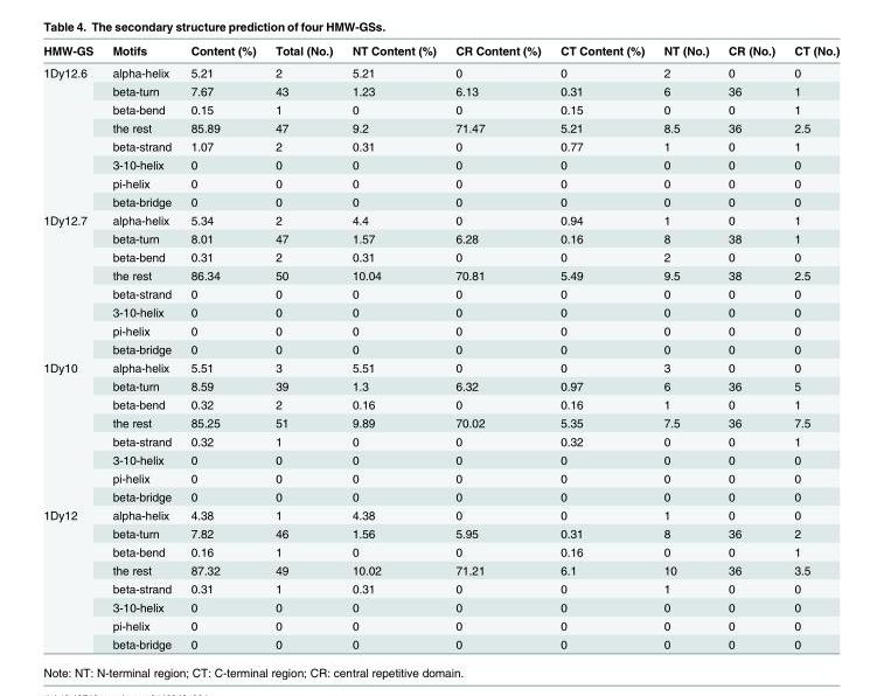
<table><thead><tr><td>HMW-GS</td><td>Motifs</td><td>Content (%)</td><td>Total (No.)</td><td>NT Content (%)</td><td>CR Content (%)</td><td>CT Content (%)</td><td>NT (No.)</td><td>CR (No.)</td><td>CT (No.)</td></tr></thead><tbody><tr><td rowspan="8">1Dy12.6</td><td>alpha-helix</td><td>5.21</td><td>2</td><td>5.21</td><td>0</td><td>0</td><td>2</td><td>0</td><td>0</td></tr><tr><td>beta-turn</td><td>7.67</td><td>43</td><td>1.23</td><td>6.13</td><td>0.31</td><td>6</td><td>36</td><td>1</td></tr><tr><td>beta-bend</td><td>0.15</td><td>1</td><td>0</td><td>0</td><td>0.15</td><td>0</td><td>0</td><td>1</td></tr><tr><td>the rest</td><td>85.89</td><td>47</td><td>9.2</td><td>71.47</td><td>5.21</td><td>8.5</td><td>36</td><td>2.5</td></tr><tr><td>beta-strand</td><td>1.07</td><td>2</td><td>0.31</td><td>0</td><td>0.77</td><td>1</td><td>0</td><td>1</td></tr><tr><td>3-10-helix</td><td>0</td><td>0</td><td>0</td><td>0</td><td>0</td><td>0</td><td>0</td><td>0</td></tr><tr><td>pi-helix</td><td>0</td><td>0</td><td>0</td><td>0</td><td>0</td><td>0</td><td>0</td><td>0</td></tr><tr><td>beta-bridge</td><td>0</td><td>0</td><td>0</td><td>0</td><td>0</td><td>0</td><td>0</td><td>0</td></tr><tr><td rowspan="8">1Dy12.7</td><td>alpha-helix</td><td>5.34</td><td>2</td><td>4.4</td><td>0</td><td>0.94</td><td>1</td><td>0</td><td>1</td></tr><tr><td>beta-turn</td><td>8.01</td><td>47</td><td>1.57</td><td>6.28</td><td>0.16</td><td>8</td><td>38</td><td>1</td></tr><tr><td>beta-bend</td><td>0.31</td><td>2</td><td>0.31</td><td>0</td><td>0</td><td>2</td><td>0</td><td>0</td></tr><tr><td>the rest</td><td>86.34</td><td>50</td><td>10.04</td><td>70.81</td><td>5.49</td><td>9.5</td><td>38</td><td>2.5</td></tr><tr><td>beta-strand</td><td>0</td><td>0</td><td>0</td><td>0</td><td>0</td><td>0</td><td>0</td><td>0</td></tr><tr><td>3-10-helix</td><td>0</td><td>0</td><td>0</td><td>0</td><td>0</td><td>0</td><td>0</td><td>0</td></tr><tr><td>pi-helix</td><td>0</td><td>0</td><td>0</td><td>0</td><td>0</td><td>0</td><td>0</td><td>0</td></tr><tr><td>beta-bridge</td><td>0</td><td>0</td><td>0</td><td>0</td><td>0</td><td>0</td><td>0</td><td>0</td></tr><tr><td rowspan="8">1Dy10</td><td>alpha-helix</td><td>5.51</td><td>3</td><td>5.51</td><td>0</td><td>0</td><td>3</td><td>0</td><td>0</td></tr><tr><td>beta-turn</td><td>8.59</td><td>39</td><td>1.3</td><td>6.32</td><td>0.97</td><td>6</td><td>36</td><td>5</td></tr><tr><td>beta-bend</td><td>0.32</td><td>2</td><td>0.16</td><td>0</td><td>0.16</td><td>1</td><td>0</td><td>1</td></tr><tr><td>the rest</td><td>85.25</td><td>51</td><td>9.89</td><td>70.02</td><td>5.35</td><td>7.5</td><td>36</td><td>7.5</td></tr><tr><td>beta-strand</td><td>0.32</td><td>1</td><td>0</td><td>0</td><td>0.32</td><td>0</td><td>0</td><td>1</td></tr><tr><td>3-10-helix</td><td>0</td><td>0</td><td>0</td><td>0</td><td>0</td><td>0</td><td>0</td><td>0</td></tr><tr><td>pi-helix</td><td>0</td><td>0</td><td>0</td><td>0</td><td>0</td><td>0</td><td>0</td><td>0</td></tr><tr><td>beta-bridge</td><td>0</td><td>0</td><td>0</td><td>0</td><td>0</td><td>0</td><td>0</td><td>0</td></tr><tr><td rowspan="8">1Dy12</td><td>alpha-helix</td><td>4.38</td><td>1</td><td>4.38</td><td>0</td><td>0</td><td>1</td><td>0</td><td>0</td></tr><tr><td>beta-turn</td><td>7.82</td><td>46</td><td>1.56</td><td>5.95</td><td>0.31</td><td>8</td><td>36</td><td>2</td></tr><tr><td>beta-bend</td><td>0.16</td><td>1</td><td>0</td><td>0</td><td>0.16</td><td>0</td><td>0</td><td>1</td></tr><tr><td>the rest</td><td>87.32</td><td>49</td><td>10.02</td><td>71.21</td><td>6.1</td><td>10</td><td>36</td><td>3.5</td></tr><tr><td>beta-strand</td><td>0.31</td><td>1</td><td>0.31</td><td>0</td><td>0</td><td>1</td><td>0</td><td>0</td></tr><tr><td>3-10-helix</td><td>0</td><td>0</td><td>0</td><td>0</td><td>0</td><td>0</td><td>0</td><td>0</td></tr><tr><td>pi-helix</td><td>0</td><td>0</td><td>0</td><td>0</td><td>0</td><td>0</td><td>0</td><td>0</td></tr><tr><td>beta-bridge</td><td>0</td><td>0</td><td>0</td><td>0</td><td>0</td><td>0</td><td>0</td><td>0</td></tr></tbody></table>